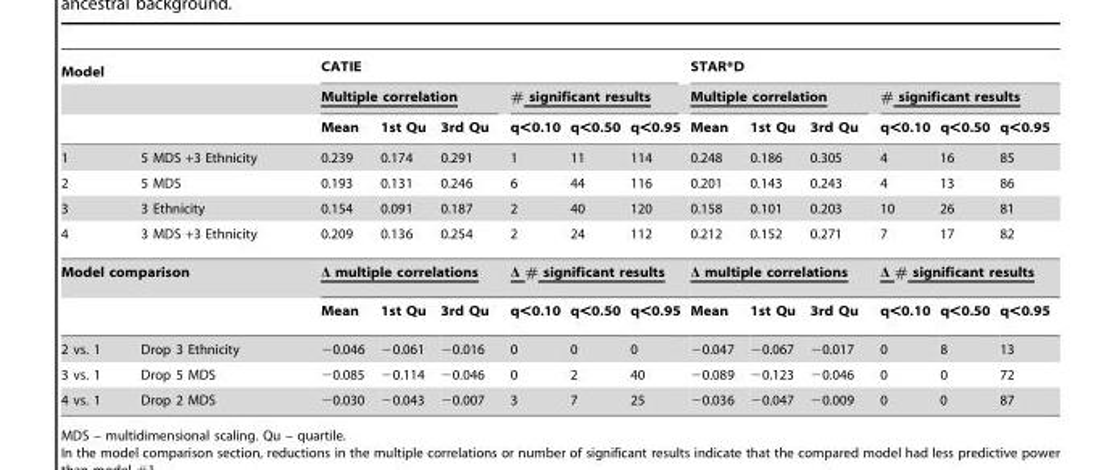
<table><thead><tr><td colspan="2">Model</td><td colspan="6">CATIE</td><td colspan="6">STAR*D</td></tr><tr><td rowspan="2"></td><td rowspan="2"></td><td colspan="3">Multiple correlation</td><td colspan="3"># significant results</td><td colspan="3">Multiple correlation</td><td colspan="3"># significant results</td></tr><tr><td>Mean</td><td>1st Qu</td><td>3rd Qu</td><td>q&lt;0.10</td><td>q&lt;0.50</td><td>q&lt;0.95</td><td>Mean</td><td>1st Qu</td><td>3rd Qu</td><td>q&lt;0.10</td><td>q&lt;0.50</td><td>q&lt;0.95</td></tr></thead><tbody><tr><td>1</td><td>5 MDS +3 Ethnicity</td><td>0.239</td><td>0.174</td><td>0.291</td><td>1</td><td>11</td><td>114</td><td>0.248</td><td>0.186</td><td>0.305</td><td>4</td><td>16</td><td>85</td></tr><tr><td>2</td><td>5 MDS</td><td>0.193</td><td>0.131</td><td>0.246</td><td>6</td><td>44</td><td>116</td><td>0.201</td><td>0.143</td><td>0.243</td><td>4</td><td>13</td><td>86</td></tr><tr><td>3</td><td>3 Ethnicity</td><td>0.154</td><td>0.091</td><td>0.187</td><td>2</td><td>40</td><td>120</td><td>0.158</td><td>0.101</td><td>0.203</td><td>10</td><td>26</td><td>81</td></tr><tr><td>4</td><td>3 MDS +3 Ethnicity</td><td>0.209</td><td>0.136</td><td>0.254</td><td>2</td><td>24</td><td>112</td><td>0.212</td><td>0.152</td><td>0.271</td><td>7</td><td>17</td><td>82</td></tr><tr><td rowspan="2" colspan="2">Model comparison</td><td colspan="3">Δ multiple correlations</td><td colspan="3">Δ # significant results</td><td colspan="3">Δ multiple correlations</td><td colspan="3">Δ # significant results</td></tr><tr><td>Mean</td><td>1st Qu</td><td>3rd Qu</td><td>q&lt;0.10</td><td>q&lt;0.50</td><td>q&lt;0.95</td><td>Mean</td><td>1st Qu</td><td>3rd Qu</td><td>q&lt;0.10</td><td>q&lt;0.50</td><td>q&lt;0.95</td></tr><tr><td>2 vs. 1</td><td>Drop 3 Ethnicity</td><td>−0.046</td><td>−0.061</td><td>−0.016</td><td>0</td><td>0</td><td>0</td><td>−0.047</td><td>−0.067</td><td>−0.017</td><td>0</td><td>8</td><td>13</td></tr><tr><td>3 vs. 1</td><td>Drop 5 MDS</td><td>−0.085</td><td>−0.114</td><td>−0.046</td><td>0</td><td>2</td><td>40</td><td>−0.089</td><td>−0.123</td><td>−0.046</td><td>0</td><td>0</td><td>72</td></tr><tr><td>4 vs. 1</td><td>Drop 2 MDS</td><td>−0.030</td><td>−0.043</td><td>−0.007</td><td>3</td><td>7</td><td>25</td><td>−0.036</td><td>−0.047</td><td>−0.009</td><td>0</td><td>0</td><td>87</td></tr></tbody></table>